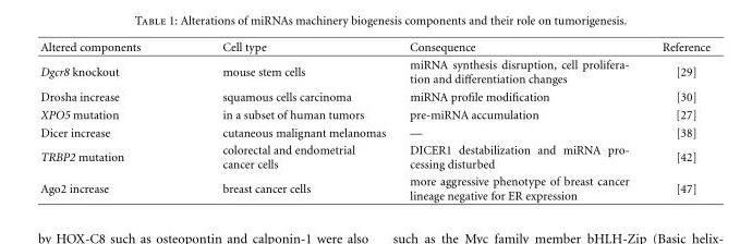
<table><thead><tr><td>Altered components</td><td>Cell type</td><td>Consequence</td><td>Reference</td></tr></thead><tbody><tr><td>Dgcr8 knockout</td><td>mouse stem cells</td><td>miRNA synthesis disruption, cell prolifera- tion and differentiation changes</td><td>[29]</td></tr><tr><td>Drosha increase</td><td>squamous cells carcinoma</td><td>miRNA profile modification</td><td>[30]</td></tr><tr><td>XPO5 mutation</td><td>in a subset of human tumors</td><td>pre-miRNA accumulation</td><td>[27]</td></tr><tr><td>Dicer increase</td><td>cutaneous malignant melanomas</td><td>—</td><td>[38]</td></tr><tr><td>TRBP2 mutation</td><td>colorectal and endometrial cancer cells</td><td>DICER1 destabilization and miRNA pro- cessing disturbed</td><td>[42]</td></tr><tr><td>Ago2 increase</td><td>breast cancer cells</td><td>more aggressive phenotype of breast cancer lineage negative for ER expression</td><td>[47]</td></tr></tbody></table>